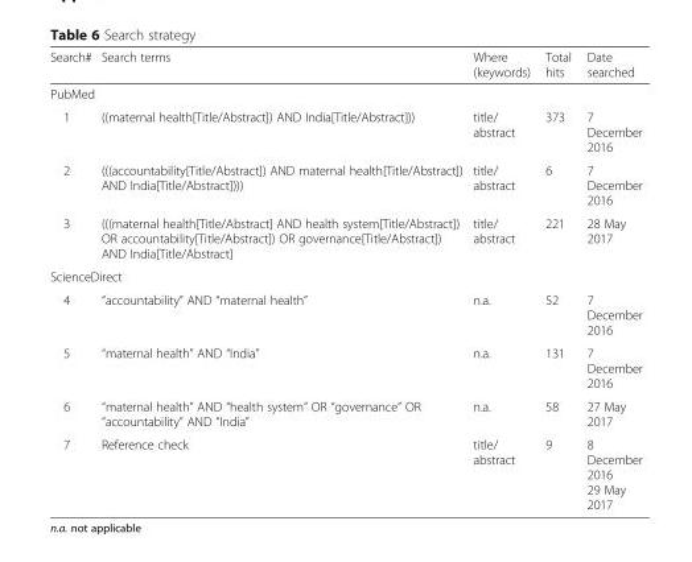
<table><thead><tr><td>Search#</td><td>Search terms</td><td>Where (keywords)</td><td>Total hits</td><td>Date searched</td></tr></thead><tbody><tr><td colspan="5">PubMed</td></tr><tr><td>1</td><td>((maternal health[Title/Abstract]) AND India[Title/Abstract]))</td><td>title/ abstract</td><td>373</td><td>7 December 2016</td></tr><tr><td>2</td><td>(((accountability[Title/Abstract]) AND maternal health[Title/Abstract]) AND India[Title/Abstract])))</td><td>title/ abstract</td><td>6</td><td>7 December 2016</td></tr><tr><td>3</td><td>(((maternal health[Title/Abstract] AND health system[Title/Abstract]) OR accountability[Title/Abstract]) OR governance[Title/Abstract]) AND India[Title/Abstract]</td><td>title/ abstract</td><td>221</td><td>28 May 2017</td></tr><tr><td colspan="5">ScienceDirect</td></tr><tr><td>4</td><td>“accountability” AND “maternal health”</td><td>n.a.</td><td>52</td><td>7 December 2016</td></tr><tr><td>5</td><td>“maternal health” AND “India”</td><td>n.a.</td><td>131</td><td>7 December 2016</td></tr><tr><td>6</td><td>“maternal health” AND “health system” OR “governance” OR “accountability” AND “India”</td><td>n.a.</td><td>58</td><td>27 May 2017</td></tr><tr><td>7</td><td>Reference check</td><td>title/ abstract</td><td>9</td><td>8 December 2016 29 May 2017</td></tr></tbody></table>